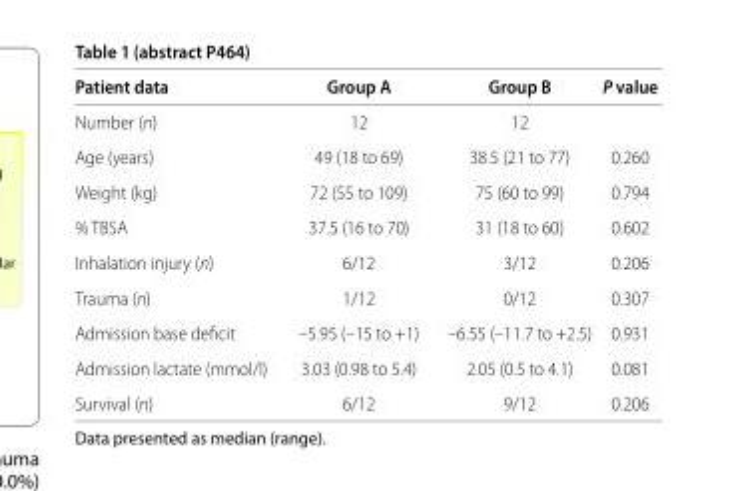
<table><thead><tr><td>Patient data</td><td>Group A</td><td>Group B</td><td>P value</td></tr></thead><tbody><tr><td>Number (n)</td><td>12</td><td>12</td><td></td></tr><tr><td>Age (years)</td><td>49 (18 to 69)</td><td>38.5 (21 to 77)</td><td>0.260</td></tr><tr><td>Weight (kg)</td><td>72 (55 to 109)</td><td>75 (60 to 99)</td><td>0.794</td></tr><tr><td>% TBSA</td><td>37.5 (16 to 70)</td><td>31 (18 to 60)</td><td>0.602</td></tr><tr><td>Inhalation injury (n)</td><td>6/12</td><td>3/12</td><td>0.206</td></tr><tr><td>Trauma (n)</td><td>1/12</td><td>0/12</td><td>0.307</td></tr><tr><td>Admission base defi cit</td><td>–5.95 (–15 to +1)</td><td>–6.55 (–11.7 to +2.5)</td><td>0.931</td></tr><tr><td>Admission lactate (mmol/l)</td><td>3.03 (0.98 to 5.4)</td><td>2.05 (0.5 to 4.1)</td><td>0.081</td></tr><tr><td>Survival (n)</td><td>6/12</td><td>9/12</td><td>0.206</td></tr></tbody></table>